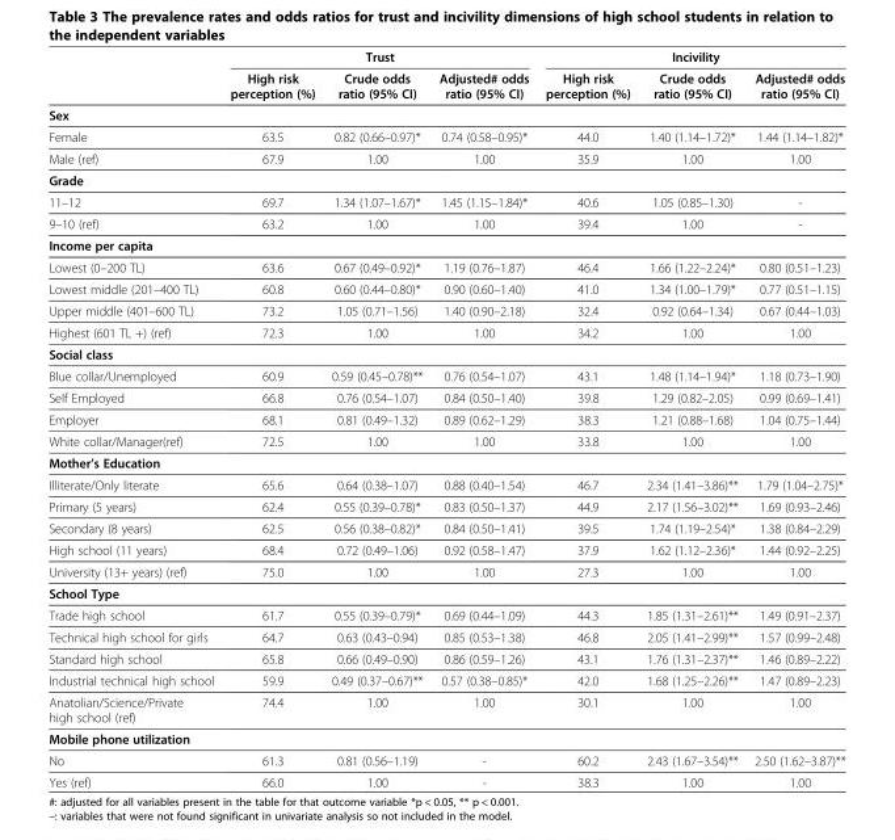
<table><thead><tr><td rowspan="2"></td><td rowspan="2">High risk perception (%)</td><td rowspan="2">Trust Crude odds ratio (95% CI)</td><td rowspan="2">Adjusted# odds ratio (95% CI)</td><td rowspan="2">High risk perception (%)</td><td rowspan="2">Incivility Crude odds ratio (95% CI)</td><td rowspan="2">Adjusted# odds ratio (95% CI)</td></tr><tr></tr></thead><tbody><tr><td colspan="7">Sex</td></tr><tr><td>Female</td><td>63.5</td><td>0.82 (0.66–0.97)*</td><td>0.74 (0.58–0.95)*</td><td>44.0</td><td>1.40 (1.14–1.72)*</td><td>1.44 (1.14–1.82)*</td></tr><tr><td>Male (ref)</td><td>67.9</td><td>1.00</td><td>1.00</td><td>35.9</td><td>1.00</td><td>1.00</td></tr><tr><td colspan="7">Grade</td></tr><tr><td>11–12</td><td>69.7</td><td>1.34 (1.07–1.67)*</td><td>1.45 (1.15–1.84)*</td><td>40.6</td><td>1.05 (0.85–1.30)</td><td>-</td></tr><tr><td>9–10 (ref)</td><td>63.2</td><td>1.00</td><td>1.00</td><td>39.4</td><td>1.00</td><td>-</td></tr><tr><td colspan="7">Income per capita</td></tr><tr><td>Lowest (0–200 TL)</td><td>63.6</td><td>0.67 (0.49–0.92)*</td><td>1.19 (0.76–1.87)</td><td>46.4</td><td>1.66 (1.22–2.24)*</td><td>0.80 (0.51–1.23)</td></tr><tr><td>Lowest middle (201–400 TL)</td><td>60.8</td><td>0.60 (0.44–0.80)*</td><td>0.90 (0.60–1.40)</td><td>41.0</td><td>1.34 (1.00–1.79)*</td><td>0.77 (0.51–1.15)</td></tr><tr><td>Upper middle (401–600 TL)</td><td>73.2</td><td>1.05 (0.71–1.56)</td><td>1.40 (0.90–2.18)</td><td>32.4</td><td>0.92 (0.64–1.34)</td><td>0.67 (0.44–1.03)</td></tr><tr><td>Highest (601 TL +) (ref)</td><td>72.3</td><td>1.00</td><td>1.00</td><td>34.2</td><td>1.00</td><td>1.00</td></tr><tr><td colspan="7">Social class</td></tr><tr><td>Blue collar/Unemployed</td><td>60.9</td><td>0.59 (0.45–0.78)**</td><td>0.76 (0.54–1.07)</td><td>43.1</td><td>1.48 (1.14–1.94)*</td><td>1.18 (0.73–1.90)</td></tr><tr><td>Self Employed</td><td>66.8</td><td>0.76 (0.54–1.07)</td><td>0.84 (0.50–1.40)</td><td>39.8</td><td>1.29 (0.82–2.05)</td><td>0.99 (0.69–1.41)</td></tr><tr><td>Employer</td><td>68.1</td><td>0.81 (0.49–1.32)</td><td>0.89 (0.62–1.29)</td><td>38.3</td><td>1.21 (0.88–1.68)</td><td>1.04 (0.75–1.44)</td></tr><tr><td>White collar/Manager(ref)</td><td>72.5</td><td>1.00</td><td>1.00</td><td>33.8</td><td>1.00</td><td>1.00</td></tr><tr><td colspan="7">Mother’s Education</td></tr><tr><td>Illiterate/Only literate</td><td>65.6</td><td>0.64 (0.38–1.07)</td><td>0.88 (0.40–1.54)</td><td>46.7</td><td>2.34 (1.41–3.86)**</td><td>1.79 (1.04–2.75)*</td></tr><tr><td>Primary (5 years)</td><td>62.4</td><td>0.55 (0.39–0.78)*</td><td>0.83 (0.50–1.37)</td><td>44.9</td><td>2.17 (1.56–3.02)**</td><td>1.69 (0.93–2.46)</td></tr><tr><td>Secondary (8 years)</td><td>62.5</td><td>0.56 (0.38–0.82)*</td><td>0.84 (0.50–1.41)</td><td>39.5</td><td>1.74 (1.19–2.54)*</td><td>1.38 (0.84–2.29)</td></tr><tr><td>High school (11 years)</td><td>68.4</td><td>0.72 (0.49–1.06)</td><td>0.92 (0.58–1.47)</td><td>37.9</td><td>1.62 (1.12–2.36)*</td><td>1.44 (0.92–2.25)</td></tr><tr><td>University (13+ years) (ref)</td><td>75.0</td><td>1.00</td><td>1.00</td><td>27.3</td><td>1.00</td><td>1.00</td></tr><tr><td colspan="7">School Type</td></tr><tr><td>Trade high school</td><td>61.7</td><td>0.55 (0.39–0.79)*</td><td>0.69 (0.44–1.09)</td><td>44.3</td><td>1.85 (1.31–2.61)**</td><td>1.49 (0.91–2.37)</td></tr><tr><td>Technical high school for girls</td><td>64.7</td><td>0.63 (0.43–0.94)</td><td>0.85 (0.53–1.38)</td><td>46.8</td><td>2.05 (1.41–2.99)**</td><td>1.57 (0.99–2.48)</td></tr><tr><td>Standard high school</td><td>65.8</td><td>0.66 (0.49–0.90)</td><td>0.86 (0.59–1.26)</td><td>43.1</td><td>1.76 (1.31–2.37)**</td><td>1.46 (0.89–2.22)</td></tr><tr><td>Industrial technical high school</td><td>59.9</td><td>0.49 (0.37–0.67)**</td><td>0.57 (0.38–0.85)*</td><td>42.0</td><td>1.68 (1.25–2.26)**</td><td>1.47 (0.89–2.23)</td></tr><tr><td>Anatolian/Science/Private high school (ref)</td><td>74.4</td><td>1.00</td><td>1.00</td><td>30.1</td><td>1.00</td><td>1.00</td></tr><tr><td colspan="7">Mobile phone utilization</td></tr><tr><td>No</td><td>61.3</td><td>0.81 (0.56–1.19)</td><td>-</td><td>60.2</td><td>2.43 (1.67–3.54)**</td><td>2.50 (1.62–3.87)**</td></tr><tr><td>Yes (ref)</td><td>66.0</td><td>1.00</td><td>-</td><td>38.3</td><td>1.00</td><td>1.00</td></tr></tbody></table>